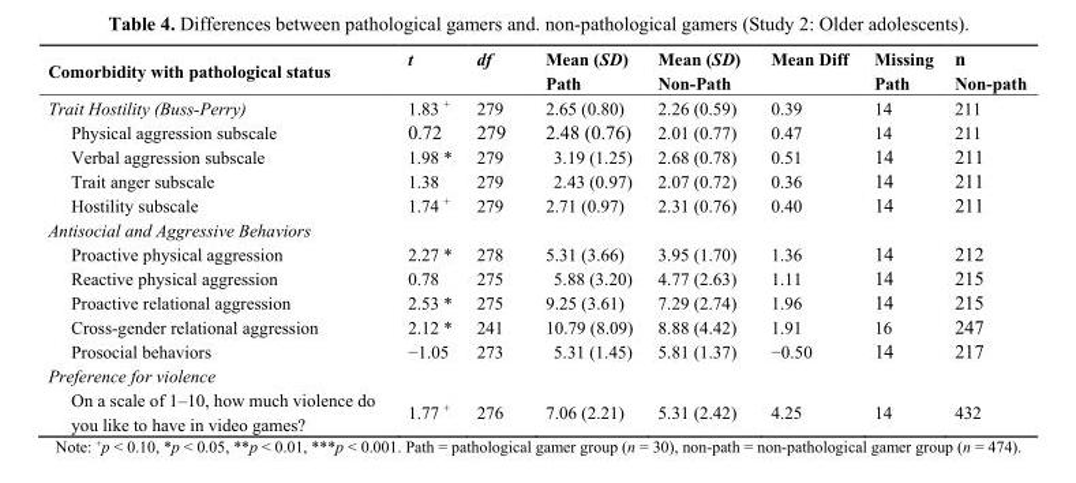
<table><thead><tr><td rowspan="2">Comorbidity with pathological status</td><td rowspan="2">t</td><td rowspan="2">df</td><td rowspan="2">Mean (SD) Path</td><td rowspan="2">Mean (SD) Non-Path</td><td rowspan="2">Mean Diff</td><td rowspan="2">Missing Path</td><td rowspan="2">n Non-path</td></tr><tr></tr></thead><tbody><tr><td>Trait Hostility (Buss-Perry)</td><td>1.83 <sup>+</sup></td><td>279</td><td>2.65 (0.80)</td><td>2.26 (0.59)</td><td>0.39</td><td>14</td><td>211</td></tr><tr><td>Physical aggression subscale</td><td>0.72</td><td>279</td><td>2.48 (0.76)</td><td>2.01 (0.77)</td><td>0.47</td><td>14</td><td>211</td></tr><tr><td>Verbal aggression subscale</td><td>1.98 *</td><td>279</td><td>3.19 (1.25)</td><td>2.68 (0.78)</td><td>0.51</td><td>14</td><td>211</td></tr><tr><td>Trait anger subscale</td><td>1.38</td><td>279</td><td>2.43 (0.97)</td><td>2.07 (0.72)</td><td>0.36</td><td>14</td><td>211</td></tr><tr><td>Hostility subscale</td><td>1.74 <sup>+</sup></td><td>279</td><td>2.71 (0.97)</td><td>2.31 (0.76)</td><td>0.40</td><td>14</td><td>211</td></tr><tr><td colspan="8">Antisocial and Aggressive Behaviors</td></tr><tr><td>Proactive physical aggression</td><td>2.27 *</td><td>278</td><td>5.31 (3.66)</td><td>3.95 (1.70)</td><td>1.36</td><td>14</td><td>212</td></tr><tr><td>Reactive physical aggression</td><td>0.78</td><td>275</td><td>5.88 (3.20)</td><td>4.77 (2.63)</td><td>1.11</td><td>14</td><td>215</td></tr><tr><td>Proactive relational aggression</td><td>2.53 *</td><td>275</td><td>9.25 (3.61)</td><td>7.29 (2.74)</td><td>1.96</td><td>14</td><td>215</td></tr><tr><td>Cross-gender relational aggression</td><td>2.12 *</td><td>241</td><td>10.79 (8.09)</td><td>8.88 (4.42)</td><td>1.91</td><td>16</td><td>247</td></tr><tr><td>Prosocial behaviors</td><td>−1.05</td><td>273</td><td>5.31 (1.45)</td><td>5.81 (1.37)</td><td>−0.50</td><td>14</td><td>217</td></tr><tr><td colspan="8">Preference for violence</td></tr><tr><td>On a scale of 1–10, how much violence do you like to have in video games?</td><td>1.77 <sup>+</sup></td><td>276</td><td>7.06 (2.21)</td><td>5.31 (2.42)</td><td>4.25</td><td>14</td><td>432</td></tr></tbody></table>